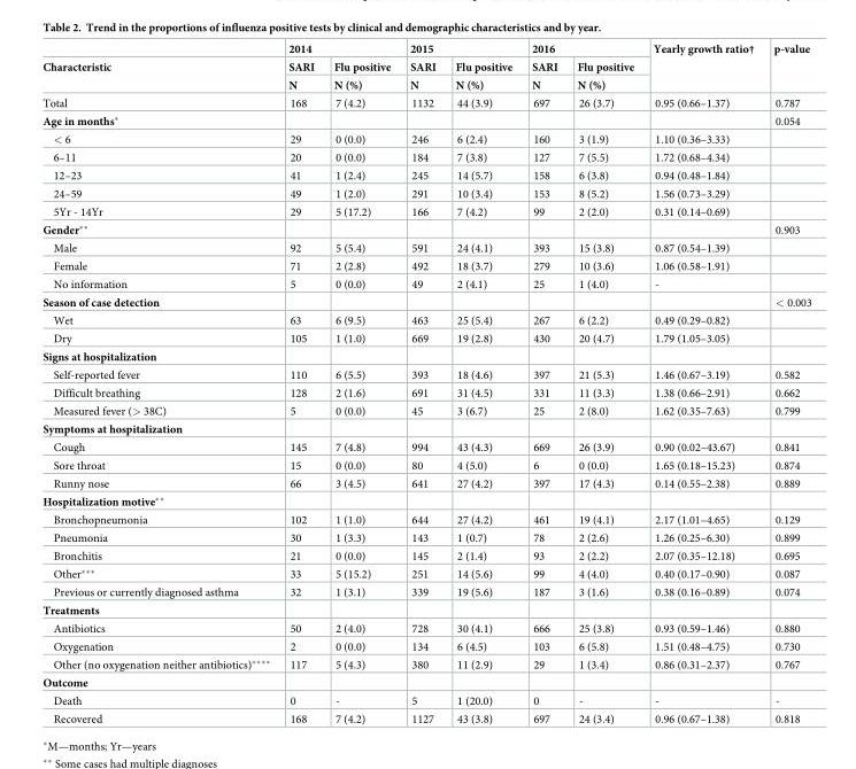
<table><thead><tr><td rowspan="3">Characteristic</td><td colspan="2">2014</td><td colspan="2">2015</td><td colspan="2">2016</td><td rowspan="3">Yearly growth ratio†</td><td rowspan="3">p-value</td></tr><tr><td rowspan="2">SARI N</td><td rowspan="2">Flu positive N (%)</td><td rowspan="2">SARI N</td><td rowspan="2">Flu positive N (%)</td><td rowspan="2">SARI N</td><td rowspan="2">Flu positive N (%)</td></tr><tr></tr></thead><tbody><tr><td>Total</td><td>168</td><td>7 (4.2)</td><td>1132</td><td>44 (3.9)</td><td>697</td><td>26 (3.7)</td><td>0.95 (0.66–1.37)</td><td>0.787</td></tr><tr><td>Age in months*</td><td></td><td></td><td></td><td></td><td></td><td></td><td></td><td>0.054</td></tr><tr><td>&lt; 6</td><td>29</td><td>0 (0.0)</td><td>246</td><td>6 (2.4)</td><td>160</td><td>3 (1.9)</td><td>1.10 (0.36–3.33)</td><td></td></tr><tr><td>6–11</td><td>20</td><td>0 (0.0)</td><td>184</td><td>7 (3.8)</td><td>127</td><td>7 (5.5)</td><td>1.72 (0.68–4.34)</td><td></td></tr><tr><td>12–23</td><td>41</td><td>1 (2.4)</td><td>245</td><td>14 (5.7)</td><td>158</td><td>6 (3.8)</td><td>0.94 (0.48–1.84)</td><td></td></tr><tr><td>24–59</td><td>49</td><td>1 (2.0)</td><td>291</td><td>10 (3.4)</td><td>153</td><td>8 (5.2)</td><td>1.56 (0.73–3.29)</td><td></td></tr><tr><td>5Yr - 14Yr</td><td>29</td><td>5 (17.2)</td><td>166</td><td>7 (4.2)</td><td>99</td><td>2 (2.0)</td><td>0.31 (0.14–0.69)</td><td></td></tr><tr><td>Gender**</td><td></td><td></td><td></td><td></td><td></td><td></td><td></td><td>0.903</td></tr><tr><td>Male</td><td>92</td><td>5 (5.4)</td><td>591</td><td>24 (4.1)</td><td>393</td><td>15 (3.8)</td><td>0.87 (0.54–1.39)</td><td></td></tr><tr><td>Female</td><td>71</td><td>2 (2.8)</td><td>492</td><td>18 (3.7)</td><td>279</td><td>10 (3.6)</td><td>1.06 (0.58–1.91)</td><td></td></tr><tr><td>No information</td><td>5</td><td>0 (0.0)</td><td>49</td><td>2 (4.1)</td><td>25</td><td>1 (4.0)</td><td>-</td><td></td></tr><tr><td>Season of case detection</td><td></td><td></td><td></td><td></td><td></td><td></td><td></td><td>&lt; 0.003</td></tr><tr><td>Wet</td><td>63</td><td>6 (9.5)</td><td>463</td><td>25 (5.4)</td><td>267</td><td>6 (2.2)</td><td>0.49 (0.29–0.82)</td><td></td></tr><tr><td>Dry</td><td>105</td><td>1 (1.0)</td><td>669</td><td>19 (2.8)</td><td>430</td><td>20 (4.7)</td><td>1.79 (1.05–3.05)</td><td></td></tr><tr><td colspan="9">Signs at hospitalization</td></tr><tr><td>Self-reported fever</td><td>110</td><td>6 (5.5)</td><td>393</td><td>18 (4.6)</td><td>397</td><td>21 (5.3)</td><td>1.46 (0.67–3.19)</td><td>0.582</td></tr><tr><td>Difficult breathing</td><td>128</td><td>2 (1.6)</td><td>691</td><td>31 (4.5)</td><td>331</td><td>11 (3.3)</td><td>1.38 (0.66–2.91)</td><td>0.662</td></tr><tr><td>Measured fever (&gt; 38C)</td><td>5</td><td>0 (0.0)</td><td>45</td><td>3 (6.7)</td><td>25</td><td>2 (8.0)</td><td>1.62 (0.35–7.63)</td><td>0.799</td></tr><tr><td colspan="9">Symptoms at hospitalization</td></tr><tr><td>Cough</td><td>145</td><td>7 (4.8)</td><td>994</td><td>43 (4.3)</td><td>669</td><td>26 (3.9)</td><td>0.90 (0.02–43.67)</td><td>0.841</td></tr><tr><td>Sore throat</td><td>15</td><td>0 (0.0)</td><td>80</td><td>4 (5.0)</td><td>6</td><td>0 (0.0)</td><td>1.65 (0.18–15.23)</td><td>0.874</td></tr><tr><td>Runny nose</td><td>66</td><td>3 (4.5)</td><td>641</td><td>27 (4.2)</td><td>397</td><td>17 (4.3)</td><td>0.14 (0.55–2.38)</td><td>0.889</td></tr><tr><td colspan="9">Hospitalization motive**</td></tr><tr><td>Bronchopneumonia</td><td>102</td><td>1 (1.0)</td><td>644</td><td>27 (4.2)</td><td>461</td><td>19 (4.1)</td><td>2.17 (1.01–4.65)</td><td>0.129</td></tr><tr><td>Pneumonia</td><td>30</td><td>1 (3.3)</td><td>143</td><td>1 (0.7)</td><td>78</td><td>2 (2.6)</td><td>1.26 (0.25–6.30)</td><td>0.899</td></tr><tr><td>Bronchitis</td><td>21</td><td>0 (0.0)</td><td>145</td><td>2 (1.4)</td><td>93</td><td>2 (2.2)</td><td>2.07 (0.35–12.18)</td><td>0.695</td></tr><tr><td>Other***</td><td>33</td><td>5 (15.2)</td><td>251</td><td>14 (5.6)</td><td>99</td><td>4 (4.0)</td><td>0.40 (0.17–0.90)</td><td>0.087</td></tr><tr><td>Previous or currently diagnosed asthma</td><td>32</td><td>1 (3.1)</td><td>339</td><td>19 (5.6)</td><td>187</td><td>3 (1.6)</td><td>0.38 (0.16–0.89)</td><td>0.074</td></tr><tr><td colspan="9">Treatments</td></tr><tr><td>Antibiotics</td><td>50</td><td>2 (4.0)</td><td>728</td><td>30 (4.1)</td><td>666</td><td>25 (3.8)</td><td>0.93 (0.59–1.46)</td><td>0.880</td></tr><tr><td>Oxygenation</td><td>2</td><td>0 (0.0)</td><td>134</td><td>6 (4.5)</td><td>103</td><td>6 (5.8)</td><td>1.51 (0.48–4.75)</td><td>0.730</td></tr><tr><td>Other (no oxygenation neither antibiotics)****</td><td>117</td><td>5 (4.3)</td><td>380</td><td>11 (2.9)</td><td>29</td><td>1 (3.4)</td><td>0.86 (0.31–2.37)</td><td>0.767</td></tr><tr><td colspan="9">Outcome</td></tr><tr><td>Death</td><td>0</td><td>-</td><td>5</td><td>1 (20.0)</td><td>0</td><td>-</td><td>-</td><td>-</td></tr><tr><td>Recovered</td><td>168</td><td>7 (4.2)</td><td>1127</td><td>43 (3.8)</td><td>697</td><td>24 (3.4)</td><td>0.96 (0.67–1.38)</td><td>0.818</td></tr></tbody></table>